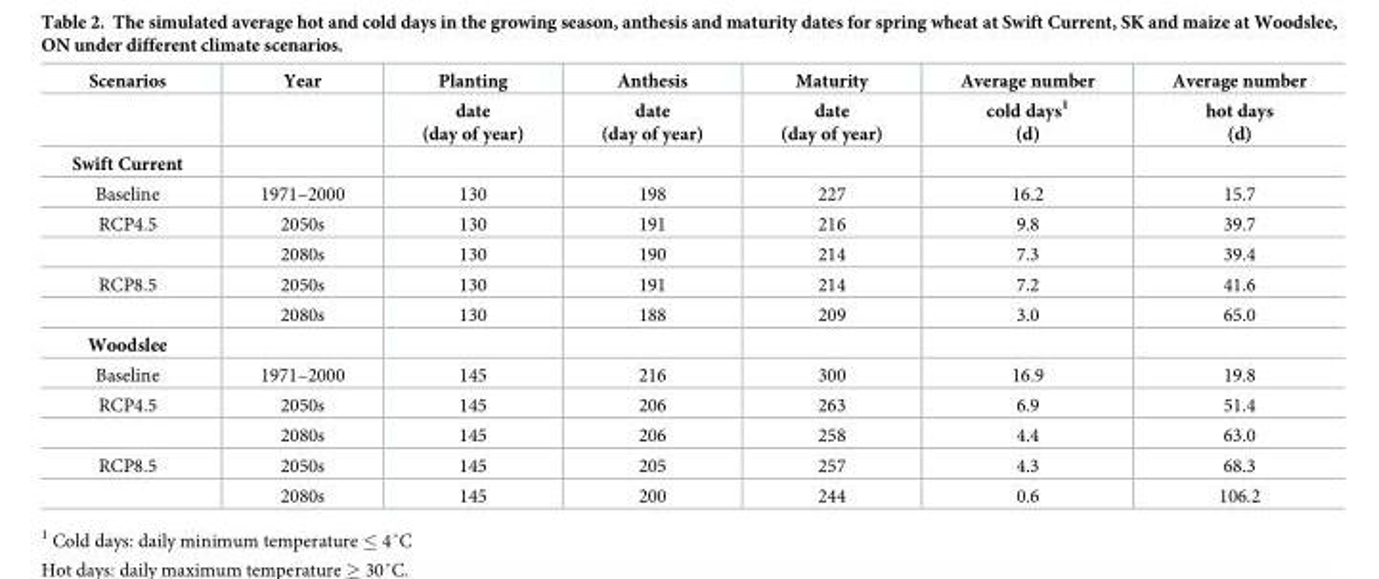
<table><thead><tr><td rowspan="2">Scenarios</td><td rowspan="2">Year</td><td rowspan="2">Planting date (day of year)</td><td rowspan="2">Anthesis date (day of year)</td><td rowspan="2">Maturity date (day of year)</td><td rowspan="2">Average number cold days<sup>1</sup> (d)</td><td rowspan="2">Average number hot days (d)</td></tr><tr></tr></thead><tbody><tr><td colspan="7">Swift Current</td></tr><tr><td>Baseline</td><td>1971–2000</td><td>130</td><td>198</td><td>227</td><td>16.2</td><td>15.7</td></tr><tr><td rowspan="2">RCP4.5</td><td>2050s</td><td>130</td><td>191</td><td>216</td><td>9.8</td><td>39.7</td></tr><tr><td>2080s</td><td>130</td><td>190</td><td>214</td><td>7.3</td><td>39.4</td></tr><tr><td rowspan="2">RCP8.5</td><td>2050s</td><td>130</td><td>191</td><td>214</td><td>7.2</td><td>41.6</td></tr><tr><td>2080s</td><td>130</td><td>188</td><td>209</td><td>3.0</td><td>65.0</td></tr><tr><td colspan="7">Woodslee</td></tr><tr><td>Baseline</td><td>1971–2000</td><td>145</td><td>216</td><td>300</td><td>16.9</td><td>19.8</td></tr><tr><td rowspan="2">RCP4.5</td><td>2050s</td><td>145</td><td>206</td><td>263</td><td>6.9</td><td>51.4</td></tr><tr><td>2080s</td><td>145</td><td>206</td><td>258</td><td>4.4</td><td>63.0</td></tr><tr><td rowspan="2">RCP8.5</td><td>2050s</td><td>145</td><td>205</td><td>257</td><td>4.3</td><td>68.3</td></tr><tr><td>2080s</td><td>145</td><td>200</td><td>244</td><td>0.6</td><td>106.2</td></tr></tbody></table>